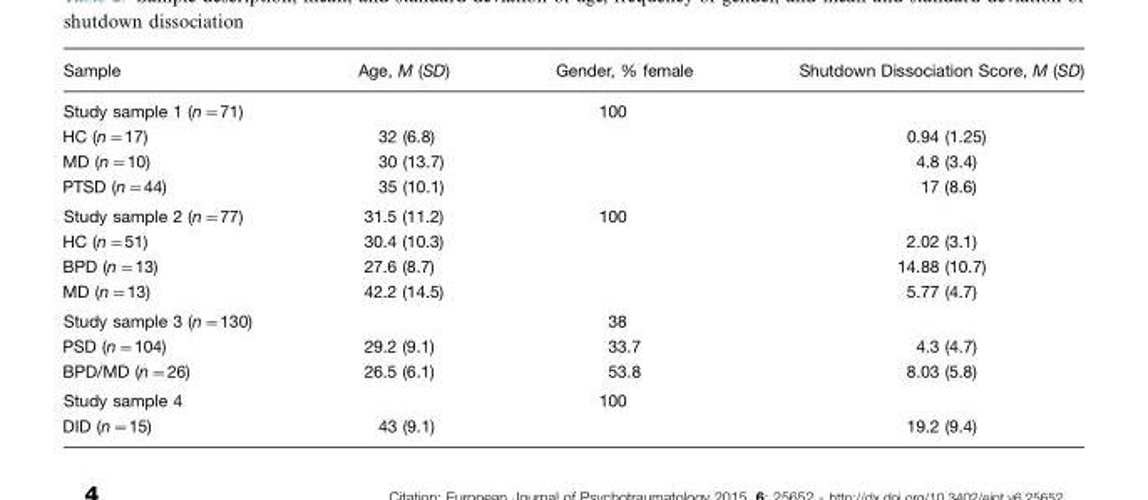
<table><thead><tr><td>Sample</td><td>Age, M (SD)</td><td>Gender, % female</td><td>Shutdown Dissociation Score, M (SD)</td></tr></thead><tbody><tr><td>Study sample 1 (n=71) HC (n=17) MD (n=10) PTSD (n=44)</td><td>32 (6.8) 30 (13.7) 35 (10.1)</td><td>100</td><td>0.94 (1.25) 4.8 (3.4) 17 (8.6)</td></tr><tr><td>Study sample 2 (n=77) HC (n=51) BPD (n=13) MD (n=13)</td><td>31.5 (11.2) 30.4 (10.3) 27.6 (8.7) 42.2 (14.5)</td><td>100</td><td>2.02 (3.1) 14.88 (10.7) 5.77 (4.7)</td></tr><tr><td>Study sample 3 (n=130) PSD (n=104) BPD/MD (n=26)</td><td>29.2 (9.1) 26.5 (6.1)</td><td>38 33.7 53.8</td><td>4.3 (4.7) 8.03 (5.8)</td></tr><tr><td>Study sample 4 DID (n=15)</td><td>43 (9.1)</td><td>100</td><td>19.2 (9.4)</td></tr></tbody></table>